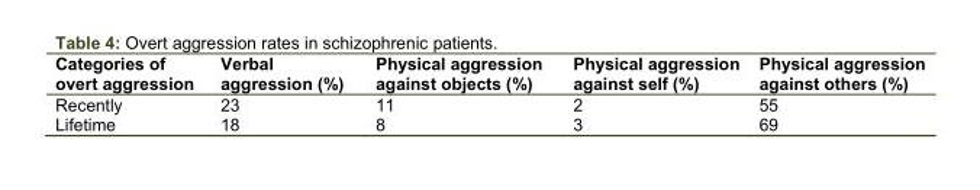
<table><thead><tr><td>Categories of overt aggression</td><td>Verbal aggression (%)</td><td>Physical aggression against objects (%)</td><td>Physical aggression against self (%)</td><td>Physical aggression against others (%)</td></tr></thead><tbody><tr><td>Recently</td><td>23</td><td>11</td><td>2</td><td>55</td></tr><tr><td>Lifetime</td><td>18</td><td>8</td><td>3</td><td>69</td></tr></tbody></table>